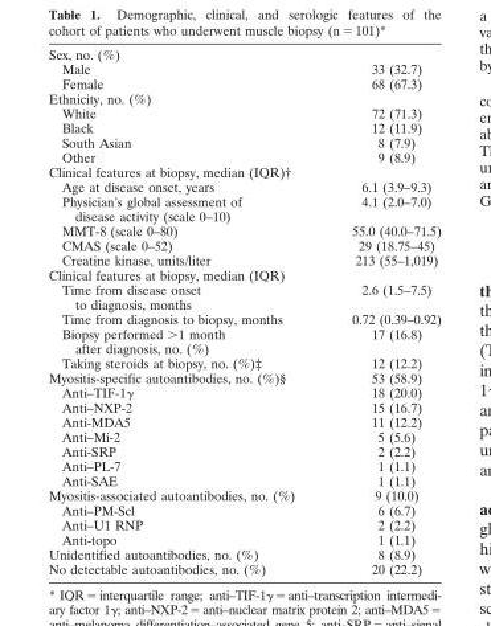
<table><tbody><tr><td colspan="2">Sex, no. (%)</td></tr><tr><td>Male</td><td>33 (32.7)</td></tr><tr><td>Female</td><td>68 (67.3)</td></tr><tr><td colspan="2">Ethnicity, no. (%)</td></tr><tr><td>White</td><td>72 (71.3)</td></tr><tr><td>Black</td><td>12 (11.9)</td></tr><tr><td>South Asian</td><td>8 (7.9)</td></tr><tr><td>Other</td><td>9 (8.9)</td></tr><tr><td colspan="2">Clinical features at biopsy, median (IQR)†</td></tr><tr><td>Age at disease onset, years</td><td>6.1 (3.9–9.3)</td></tr><tr><td>Physician’s global assessment of disease activity (scale 0–10)</td><td>4.1 (2.0–7.0)</td></tr><tr><td>MMT-8 (scale 0–80)</td><td>55.0 (40.0–71.5)</td></tr><tr><td>CMAS (scale 0–52)</td><td>29 (18.75–45)</td></tr><tr><td>Creatine kinase, units/liter</td><td>213 (55–1,019)</td></tr><tr><td colspan="2">Clinical features at biopsy, median (IQR)</td></tr><tr><td>Time from disease onset to diagnosis, months</td><td>2.6 (1.5–7.5)</td></tr><tr><td>Time from diagnosis to biopsy, months</td><td>0.72 (0.39–0.92)</td></tr><tr><td>Biopsy performed &gt;1 month after diagnosis, no. (%)</td><td>17 (16.8)</td></tr><tr><td>Taking steroids at biopsy, no. (%)‡</td><td>12 (12.2)</td></tr><tr><td>Myositis-specific autoantibodies, no. (%)§</td><td>53 (58.9)</td></tr><tr><td>Anti–TIF-1γ</td><td>18 (20.0)</td></tr><tr><td>Anti–NXP-2</td><td>15 (16.7)</td></tr><tr><td>Anti-MDA5</td><td>11 (12.2)</td></tr><tr><td>Anti–Mi-2</td><td>5 (5.6)</td></tr><tr><td>Anti-SRP</td><td>2 (2.2)</td></tr><tr><td>Anti–PL-7</td><td>1 (1.1)</td></tr><tr><td>Anti-SAE</td><td>1 (1.1)</td></tr><tr><td>Myositis-associated autoantibodies, no. (%)</td><td>9 (10.0)</td></tr><tr><td>Anti–PM-Scl</td><td>6 (6.7)</td></tr><tr><td>Anti–U1 RNP</td><td>2 (2.2)</td></tr><tr><td>Anti-topo</td><td>1 (1.1)</td></tr><tr><td>Unidentified autoantibodies, no. (%)</td><td>8 (8.9)</td></tr><tr><td>No detectable autoantibodies, no. (%)</td><td>20 (22.2)</td></tr></tbody></table>